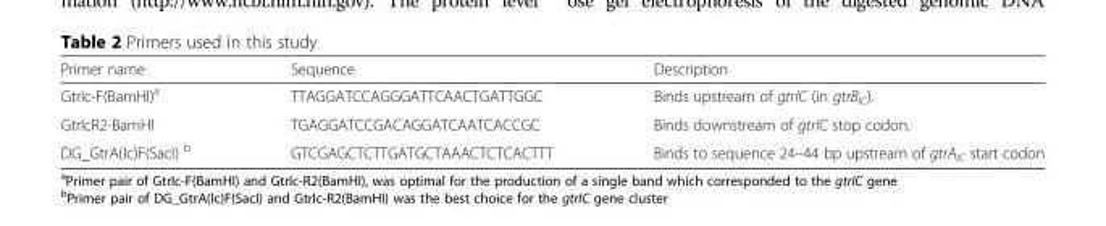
<table><thead><tr><td>Primer name</td><td>Sequence</td><td>Description</td></tr></thead><tbody><tr><td>GtrIc-F(BamHI)<sup>a</sup></td><td>TTAGGATCCAGGGATTCAACTGATTGGC</td><td>Binds upstream of gtrIC (in gtrB<sub>IC</sub>).</td></tr><tr><td>GtrIcR2-BamHI</td><td>TGAGGATCCGACAGGATCAATCACCGC</td><td>Binds downstream of gtrIC stop codon.</td></tr><tr><td>DG_GtrA(Ic)F(SacI) <sup>b</sup></td><td>GTCGAGCTCTTGATGCTAAACTCTCACTTT</td><td>Binds to sequence 24–44 bp upstream of gtrA<sub>IC</sub> start codon</td></tr></tbody></table>